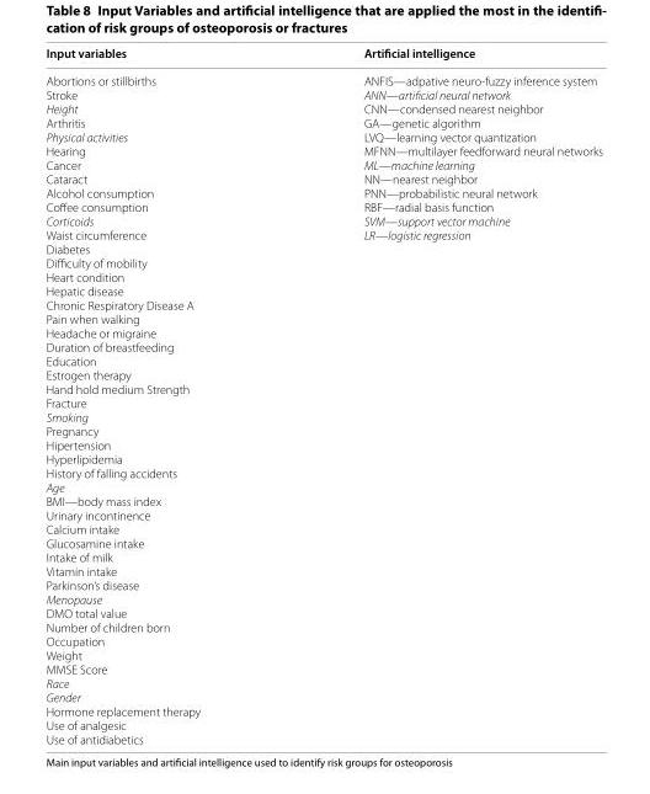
<table><thead><tr><td>Input variables</td><td>Artificial intelligence</td></tr></thead><tbody><tr><td>Abortions or stillbirths Stroke Height Arthritis Physical activities Hearing Cancer Cataract Alcohol consumption Coffee consumption Corticoids Waist circumference Diabetes Difficulty of mobility Heart condition Hepatic disease Chronic Respiratory Disease A Pain when walking Headache or migraine Duration of breastfeeding Education Estrogen therapy Hand hold medium Strength Fracture Smoking Pregnancy Hipertension Hyperlipidemia History of falling accidents Age BMI—body mass index Urinary incontinence Calcium intake Glucosamine intake Intake of milk Vitamin intake Parkinson’s disease Menopause DMO total value Number of children born Occupation Weight MMSE Score Race Gender Hormone replacement therapy Use of analgesic Use of antidiabetics</td><td>ANFIS—adpative neuro-fuzzy inference system ANN—artificial neural network CNN—condensed nearest neighbor GA—genetic algorithm LVQ—learning vector quantization MFNN—multilayer feedforward neural networks ML—machine learning NN—nearest neighbor PNN—probabilistic neural network RBF—radial basis function SVM—support vector machine LR—logistic regression</td></tr></tbody></table>